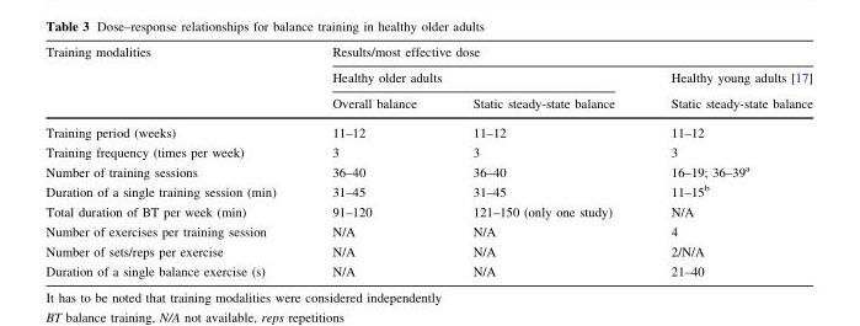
<table><thead><tr><td rowspan="3">Training modalities</td><td colspan="3">Results/most effective dose</td></tr><tr><td colspan="2">Healthy older adults</td><td rowspan="2">Healthy young adults [17] Static steady-state balance</td></tr><tr><td>Overall balance</td><td>Static steady-state balance</td></tr></thead><tbody><tr><td>Training period (weeks)</td><td>11–12</td><td>11–12</td><td>11–12</td></tr><tr><td>Training frequency (times per week)</td><td>3</td><td>3</td><td>3</td></tr><tr><td>Number of training sessions</td><td>36–40</td><td>36–40</td><td>16–19; 36–39<sup>a</sup></td></tr><tr><td>Duration of a single training session (min)</td><td>31–45</td><td>31–45</td><td>11–15<sup>b</sup></td></tr><tr><td>Total duration of BT per week (min)</td><td>91–120</td><td>121–150 (only one study)</td><td>N/A</td></tr><tr><td>Number of exercises per training session</td><td>N/A</td><td>N/A</td><td>4</td></tr><tr><td>Number of sets/reps per exercise</td><td>N/A</td><td>N/A</td><td>2/N/A</td></tr><tr><td>Duration of a single balance exercise (s)</td><td>N/A</td><td>N/A</td><td>21–40</td></tr></tbody></table>